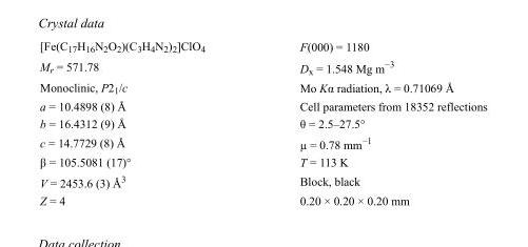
<table><tbody><tr><td>[Fe(C<sub>17</sub>H<sub>16</sub>N<sub>2</sub>O<sub>2</sub>)(C<sub>3</sub>H<sub>4</sub>N<sub>2</sub>)<sub>2</sub>]ClO<sub>4</sub></td><td>F(000) = 1180</td></tr><tr><td>M<sub>r</sub> = 571.78</td><td>D<sub>x</sub> = 1.548 Mg m<sup>−3</sup></td></tr><tr><td>Monoclinic, P2<sub>1</sub>/c</td><td>Mo Kα radiation, λ = 0.71069 Å</td></tr><tr><td>a = 10.4898 (8) Å</td><td>Cell parameters from 18352 reflections</td></tr><tr><td>b = 16.4312 (9) Å</td><td>θ = 2.5–27.5°</td></tr><tr><td>c = 14.7729 (8) Å</td><td>µ = 0.78 mm<sup>−1</sup></td></tr><tr><td>β = 105.5081 (17)°</td><td>T = 113 K</td></tr><tr><td>V = 2453.6 (3) Å<sup>3</sup></td><td>Block, black</td></tr><tr><td>Z = 4</td><td>0.20 × 0.20 × 0.20 mm</td></tr></tbody></table>